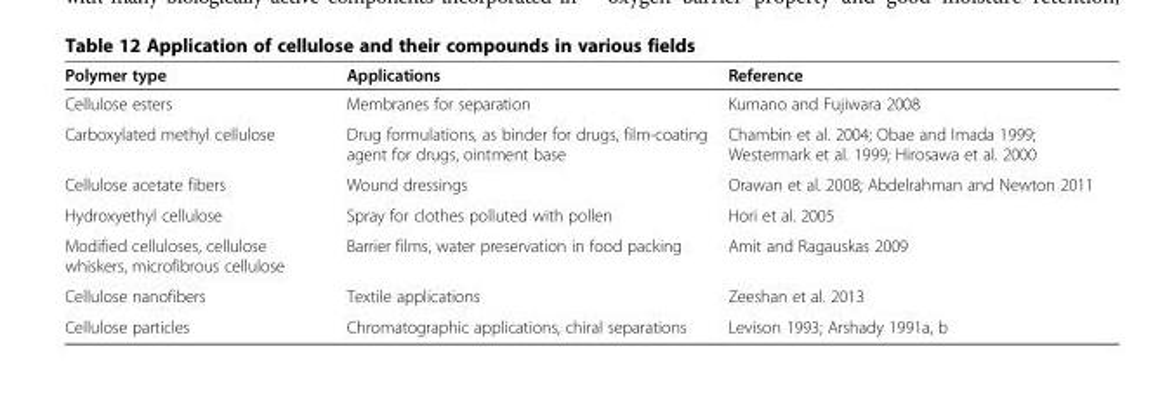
<table><thead><tr><td>Polymer type</td><td>Applications</td><td>Reference</td></tr></thead><tbody><tr><td>Cellulose esters</td><td>Membranes for separation</td><td>Kumano and Fujiwara 2008</td></tr><tr><td>Carboxylated methyl cellulose</td><td>Drug formulations, as binder for drugs, film-coating agent for drugs, ointment base</td><td>Chambin et al. 2004; Obae and Imada 1999; Westermark et al. 1999; Hirosawa et al. 2000</td></tr><tr><td>Cellulose acetate fibers</td><td>Wound dressings</td><td>Orawan et al. 2008; Abdelrahman and Newton 2011</td></tr><tr><td>Hydroxyethyl cellulose</td><td>Spray for clothes polluted with pollen</td><td>Hori et al. 2005</td></tr><tr><td>Modified celluloses, cellulose whiskers, microfibrous cellulose</td><td>Barrier films, water preservation in food packing</td><td>Amit and Ragauskas 2009</td></tr><tr><td>Cellulose nanofibers</td><td>Textile applications</td><td>Zeeshan et al. 2013</td></tr><tr><td>Cellulose particles</td><td>Chromatographic applications, chiral separations</td><td>Levison 1993; Arshady 1991a, b</td></tr></tbody></table>